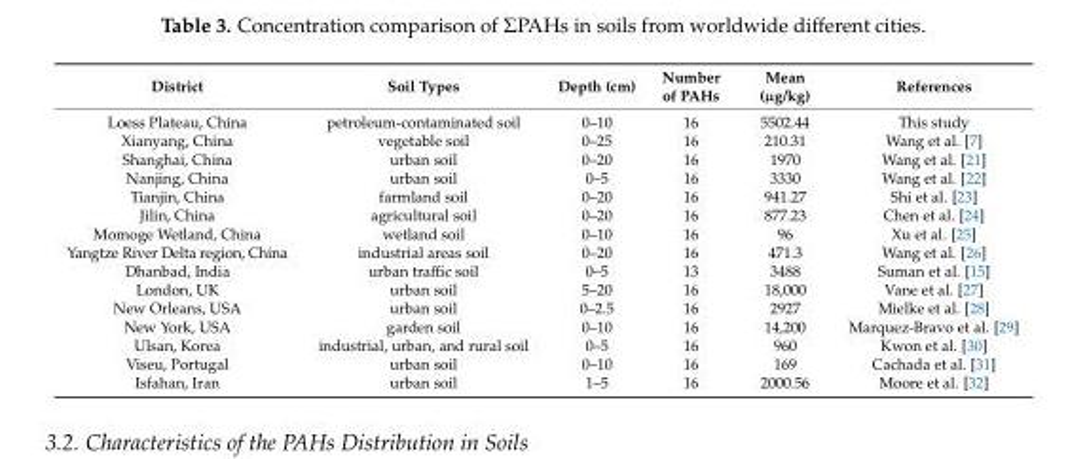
<table><thead><tr><td>District</td><td>Soil Types</td><td>Depth (cm)</td><td>Number of PAHs</td><td>Mean (µg/kg)</td><td>References</td></tr></thead><tbody><tr><td>Loess Plateau, China</td><td>petroleum-contaminated soil</td><td>0–10</td><td>16</td><td>5502.44</td><td>This study</td></tr><tr><td>Xianyang, China</td><td>vegetable soil</td><td>0–25</td><td>16</td><td>210.31</td><td>Wang et al. [7]</td></tr><tr><td>Shanghai, China</td><td>urban soil</td><td>0–20</td><td>16</td><td>1970</td><td>Wang et al. [21]</td></tr><tr><td>Nanjing, China</td><td>urban soil</td><td>0–5</td><td>16</td><td>3330</td><td>Wang et al. [22]</td></tr><tr><td>Tianjin, China</td><td>farmland soil</td><td>0–20</td><td>16</td><td>941.27</td><td>Shi et al. [23]</td></tr><tr><td>Jilin, China</td><td>agricultural soil</td><td>0–20</td><td>16</td><td>877.23</td><td>Chen et al. [24]</td></tr><tr><td>Momoge Wetland, China</td><td>wetland soil</td><td>0–10</td><td>16</td><td>96</td><td>Xu et al. [25]</td></tr><tr><td>Yangtze River Delta region, China</td><td>industrial areas soil</td><td>0–20</td><td>16</td><td>471.3</td><td>Wang et al. [26]</td></tr><tr><td>Dhanbad, India</td><td>urban traffic soil</td><td>0–5</td><td>13</td><td>3488</td><td>Suman et al. [15]</td></tr><tr><td>London, UK</td><td>urban soil</td><td>5–20</td><td>16</td><td>18,000</td><td>Vane et al. [27]</td></tr><tr><td>New Orleans, USA</td><td>urban soil</td><td>0–2.5</td><td>16</td><td>2927</td><td>Mielke et al. [28]</td></tr><tr><td>New York, USA</td><td>garden soil</td><td>0–10</td><td>16</td><td>14,200</td><td>Marquez-Bravo et al. [29]</td></tr><tr><td>Ulsan, Korea</td><td>industrial, urban, and rural soil</td><td>0–5</td><td>16</td><td>960</td><td>Kwon et al. [30]</td></tr><tr><td>Viseu, Portugal</td><td>urban soil</td><td>0–10</td><td>16</td><td>169</td><td>Cachada et al. [31]</td></tr><tr><td>Isfahan, Iran</td><td>urban soil</td><td>1–5</td><td>16</td><td>2000.56</td><td>Moore et al. [32]</td></tr></tbody></table>